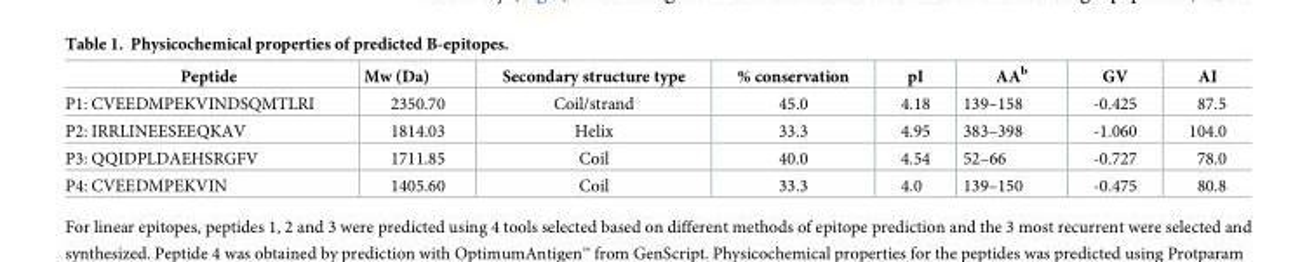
<table><thead><tr><td>Peptide</td><td>Mw (Da)</td><td>Secondary structure type</td><td>% conservation</td><td>pI</td><td>AA<sup>b</sup></td><td>GV</td><td>AI</td></tr></thead><tbody><tr><td>P1: CVEEDMPEKVINDSQMTLRI</td><td>2350.70</td><td>Coil/strand</td><td>45.0</td><td>4.18</td><td>139–158</td><td>-0.425</td><td>87.5</td></tr><tr><td>P2: IRRLINEESEEQKAV</td><td>1814.03</td><td>Helix</td><td>33.3</td><td>4.95</td><td>383–398</td><td>-1.060</td><td>104.0</td></tr><tr><td>P3: QQIDPLDAEHSRGFV</td><td>1711.85</td><td>Coil</td><td>40.0</td><td>4.54</td><td>52–66</td><td>-0.727</td><td>78.0</td></tr><tr><td>P4: CVEEDMPEKVIN</td><td>1405.60</td><td>Coil</td><td>33.3</td><td>4.0</td><td>139–150</td><td>-0.475</td><td>80.8</td></tr></tbody></table>